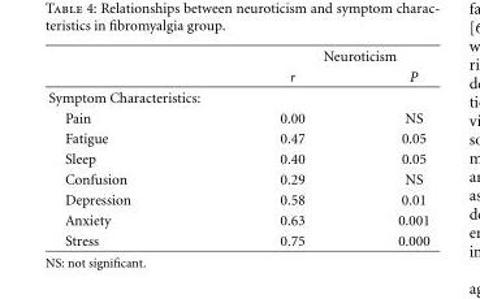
<table><thead><tr><td rowspan="2"></td><td colspan="2">Neuroticism</td></tr><tr><td>r</td><td>P</td></tr></thead><tbody><tr><td colspan="3">Symptom Characteristics:</td></tr><tr><td>Pain</td><td>0.00</td><td>NS</td></tr><tr><td>Fatigue</td><td>0.47</td><td>0.05</td></tr><tr><td>Sleep</td><td>0.40</td><td>0.05</td></tr><tr><td>Confusion</td><td>0.29</td><td>NS</td></tr><tr><td>Depression</td><td>0.58</td><td>0.01</td></tr><tr><td>Anxiety</td><td>0.63</td><td>0.001</td></tr><tr><td>Stress</td><td>0.75</td><td>0.000</td></tr></tbody></table>